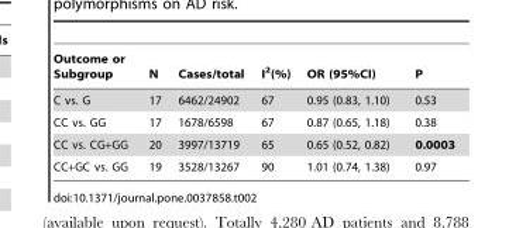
<table><thead><tr><td>Outcome or Subgroup</td><td>N</td><td>Cases/total</td><td>I<sup>2</sup>(%)</td><td>OR (95%CI)</td><td>P</td></tr></thead><tbody><tr><td>C vs. G</td><td>17</td><td>6462/24902</td><td>67</td><td>0.95 (0.83, 1.10)</td><td>0.53</td></tr><tr><td>CC vs. GG</td><td>17</td><td>1678/6598</td><td>67</td><td>0.87 (0.65, 1.18)</td><td>0.38</td></tr><tr><td>CC vs. CG+GG</td><td>20</td><td>3997/13719</td><td>65</td><td>0.65 (0.52, 0.82)</td><td>0.0003</td></tr><tr><td>CC+GC vs. GG</td><td>19</td><td>3528/13267</td><td>90</td><td>1.01 (0.74, 1.38)</td><td>0.97</td></tr></tbody></table>